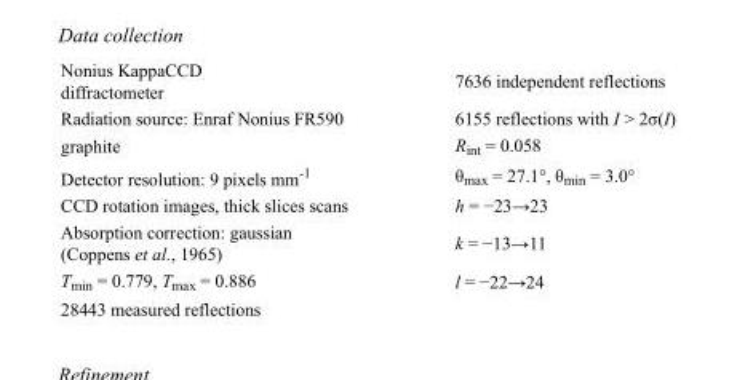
<table><tbody><tr><td>Nonius KappaCCD diffractometer</td><td>7636 independent reflections</td></tr><tr><td>Radiation source: Enraf Nonius FR590</td><td>6155 reflections with I &gt; 2σ(I)</td></tr><tr><td>graphite</td><td>R<sub>int</sub> = 0.058</td></tr><tr><td>Detector resolution: 9 pixels mm<sup>-1</sup></td><td>θ<sub>max</sub> = 27.1°, θ<sub>min</sub> = 3.0°</td></tr><tr><td>CCD rotation images, thick slices scans</td><td>h = −23→23</td></tr><tr><td>Absorption correction: gaussian (Coppens et al., 1965)</td><td>k = −13→11</td></tr><tr><td>T<sub>min</sub> = 0.779, T<sub>max</sub> = 0.886</td><td>l = −22→24</td></tr><tr><td>28443 measured reflections</td><td></td></tr></tbody></table>